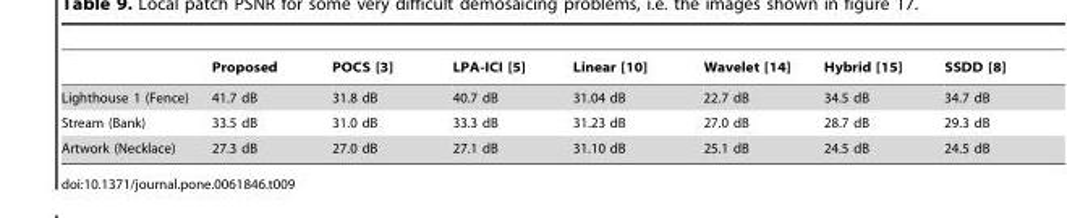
<table><thead><tr><td></td><td>Proposed</td><td>POCS [3]</td><td>LPA-ICI [5]</td><td>Linear [10]</td><td>Wavelet [14]</td><td>Hybrid [15]</td><td>SSDD [8]</td></tr></thead><tbody><tr><td>Lighthouse 1 (Fence)</td><td>41.7 dB</td><td>31.8 dB</td><td>40.7 dB</td><td>31.04 dB</td><td>22.7 dB</td><td>34.5 dB</td><td>34.7 dB</td></tr><tr><td>Stream (Bank)</td><td>33.5 dB</td><td>31.0 dB</td><td>33.3 dB</td><td>31.23 dB</td><td>27.0 dB</td><td>28.7 dB</td><td>29.3 dB</td></tr><tr><td>Artwork (Necklace)</td><td>27.3 dB</td><td>27.0 dB</td><td>27.1 dB</td><td>31.10 dB</td><td>25.1 dB</td><td>24.5 dB</td><td>24.5 dB</td></tr></tbody></table>